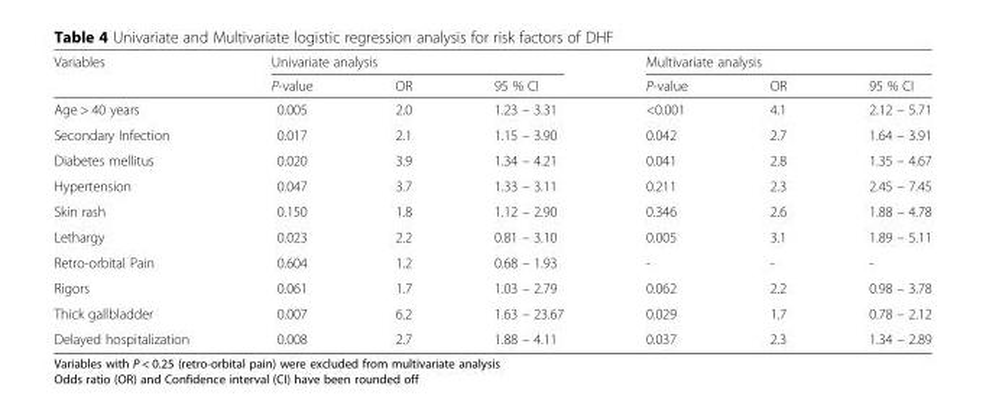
<table><thead><tr><td rowspan="2">Variables</td><td colspan="3">Univariate analysis</td><td colspan="3">Multivariate analysis</td></tr><tr><td>P-value</td><td>OR</td><td>95 % CI</td><td>P-value</td><td>OR</td><td>95 % CI</td></tr></thead><tbody><tr><td>Age &gt; 40 years</td><td>0.005</td><td>2.0</td><td>1.23 – 3.31</td><td>&lt;0.001</td><td>4.1</td><td>2.12 – 5.71</td></tr><tr><td>Secondary Infection</td><td>0.017</td><td>2.1</td><td>1.15 – 3.90</td><td>0.042</td><td>2.7</td><td>1.64 – 3.91</td></tr><tr><td>Diabetes mellitus</td><td>0.020</td><td>3.9</td><td>1.34 – 4.21</td><td>0.041</td><td>2.8</td><td>1.35 – 4.67</td></tr><tr><td>Hypertension</td><td>0.047</td><td>3.7</td><td>1.33 – 3.11</td><td>0.211</td><td>2.3</td><td>2.45 – 7.45</td></tr><tr><td>Skin rash</td><td>0.150</td><td>1.8</td><td>1.12 – 2.90</td><td>0.346</td><td>2.6</td><td>1.88 – 4.78</td></tr><tr><td>Lethargy</td><td>0.023</td><td>2.2</td><td>0.81 – 3.10</td><td>0.005</td><td>3.1</td><td>1.89 – 5.11</td></tr><tr><td>Retro-orbital Pain</td><td>0.604</td><td>1.2</td><td>0.68 – 1.93</td><td>-</td><td>-</td><td>-</td></tr><tr><td>Rigors</td><td>0.061</td><td>1.7</td><td>1.03 – 2.79</td><td>0.062</td><td>2.2</td><td>0.98 – 3.78</td></tr><tr><td>Thick gallbladder</td><td>0.007</td><td>6.2</td><td>1.63 – 23.67</td><td>0.029</td><td>1.7</td><td>0.78 – 2.12</td></tr><tr><td>Delayed hospitalization</td><td>0.008</td><td>2.7</td><td>1.88 – 4.11</td><td>0.037</td><td>2.3</td><td>1.34 – 2.89</td></tr></tbody></table>